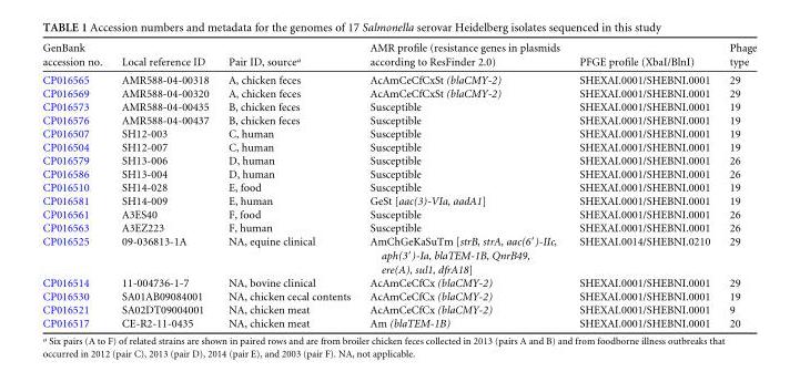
<table><thead><tr><td>GenBank accession no.</td><td>Local reference ID</td><td>Pair ID, source<sup>a</sup></td><td>AMR profile (resistance genes in plasmids according to ResFinder 2.0)</td><td>PFGE profile (XbaI/BlnI)</td><td>Phage type</td></tr></thead><tbody><tr><td>CP016565</td><td>AMR588-04-00318</td><td>A, chicken feces</td><td>AcAmCeCfCxSt (blaCMY-2)</td><td>SHEXAI.0001/SHEBNI.0001</td><td>29</td></tr><tr><td>CP016569</td><td>AMR588-04-00320</td><td>A, chicken feces</td><td>AcAmCeCfCxSt (blaCMY-2)</td><td>SHEXAI.0001/SHEBNI.0001</td><td>29</td></tr><tr><td>CP016573</td><td>AMR588-04-00435</td><td>B, chicken feces</td><td>Susceptible</td><td>SHEXAI.0001/SHEBNI.0001</td><td>19</td></tr><tr><td>CP016576</td><td>AMR588-04-00437</td><td>B, chicken feces</td><td>Susceptible</td><td>SHEXAI.0001/SHEBNI.0001</td><td>19</td></tr><tr><td>CP016507</td><td>SH12-003</td><td>C, human</td><td>Susceptible</td><td>SHEXAI.0001/SHEBNI.0001</td><td>19</td></tr><tr><td>CP016504</td><td>SH12-007</td><td>C, human</td><td>Susceptible</td><td>SHEXAI.0001/SHEBNI.0001</td><td>19</td></tr><tr><td>CP016579</td><td>SH13-006</td><td>D, human</td><td>Susceptible</td><td>SHEXAI.0001/SHEBNI.0001</td><td>26</td></tr><tr><td>CP016586</td><td>SH13-004</td><td>D, human</td><td>Susceptible</td><td>SHEXAI.0001/SHEBNI.0001</td><td>26</td></tr><tr><td>CP016510</td><td>SH14-028</td><td>E, food</td><td>Susceptible</td><td>SHEXAI.0001/SHEBNI.0001</td><td>19</td></tr><tr><td>CP016581</td><td>SH14-009</td><td>E, human</td><td>GeSt [aac(3)-VIa, aadA1]</td><td>SHEXAI.0001/SHEBNI.0001</td><td>19</td></tr><tr><td>CP016561</td><td>A3ES40</td><td>F, food</td><td>Susceptible</td><td>SHEXAI.0001/SHEBNI.0001</td><td>26</td></tr><tr><td>CP016563</td><td>A3EZ223</td><td>F, human</td><td>Susceptible</td><td>SHEXAI.0001/SHEBNI.0001</td><td>26</td></tr><tr><td>CP016525</td><td>09-036813-1A</td><td>NA, equine clinical</td><td>AmChGeKaSuTm [strB, strA, aac(6=)-IIc, aph(3=)-Ia, blaTEM-1B, QnrB49, ere(A), sul1, dfrA18]</td><td>SHEXAI.0014/SHEBNI.0210</td><td>29</td></tr><tr><td>CP016514</td><td>11-004736-1-7</td><td>NA, bovine clinical</td><td>AcAmCeCfCx (blaCMY-2)</td><td>SHEXAI.0001/SHEBNI.0001</td><td>29</td></tr><tr><td>CP016530</td><td>SA01AB09084001</td><td>NA, chicken cecal contents</td><td>AcAmCeCfCx (blaCMY-2)</td><td>SHEXAI.0001/SHEBNI.0001</td><td>19</td></tr><tr><td>CP016521</td><td>SA02DT09004001</td><td>NA, chicken meat</td><td>AcAmCeCfCx (blaCMY-2)</td><td>SHEXAI.0001/SHEBNI.0001</td><td>9</td></tr><tr><td>CP016517</td><td>CE-R2-11-0435</td><td>NA, chicken meat</td><td>Am (blaTEM-1B)</td><td>SHEXAI.0001/SHEBNI.0001</td><td>20</td></tr></tbody></table>